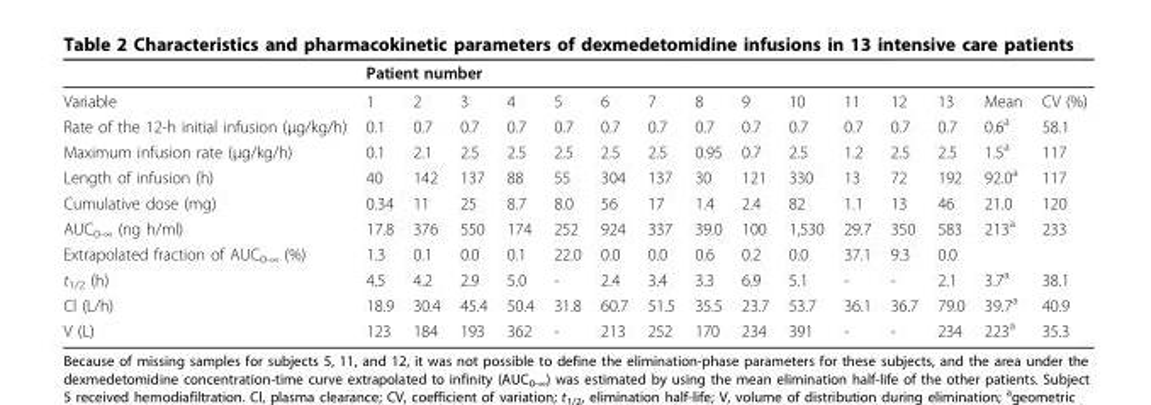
<table><thead><tr><td rowspan="2">Variable</td><td colspan="13">Patient number</td><td rowspan="2">Mean</td><td rowspan="2">CV (%)</td></tr><tr><td>1</td><td>2</td><td>3</td><td>4</td><td>5</td><td>6</td><td>7</td><td>8</td><td>9</td><td>10</td><td>11</td><td>12</td><td>13</td></tr></thead><tbody><tr><td>Rate of the 12-h initial infusion (μg/kg/h)</td><td>0.1</td><td>0.7</td><td>0.7</td><td>0.7</td><td>0.7</td><td>0.7</td><td>0.7</td><td>0.7</td><td>0.7</td><td>0.7</td><td>0.7</td><td>0.7</td><td>0.7</td><td>0.6<sup>a</sup></td><td>58.1</td></tr><tr><td>Maximum infusion rate (μg/kg/h)</td><td>0.1</td><td>2.1</td><td>2.5</td><td>2.5</td><td>2.5</td><td>2.5</td><td>2.5</td><td>0.95</td><td>0.7</td><td>2.5</td><td>1.2</td><td>2.5</td><td>2.5</td><td>1.5<sup>a</sup></td><td>117</td></tr><tr><td>Length of infusion (h)</td><td>40</td><td>142</td><td>137</td><td>88</td><td>55</td><td>304</td><td>137</td><td>30</td><td>121</td><td>330</td><td>13</td><td>72</td><td>192</td><td>92.0<sup>a</sup></td><td>117</td></tr><tr><td>Cumulative dose (mg)</td><td>0.34</td><td>11</td><td>25</td><td>8.7</td><td>8.0</td><td>56</td><td>17</td><td>1.4</td><td>2.4</td><td>82</td><td>1.1</td><td>13</td><td>46</td><td>21.0</td><td>120</td></tr><tr><td>AUC<sub>0-∞</sub> (ng h/ml)</td><td>17.8</td><td>376</td><td>550</td><td>174</td><td>252</td><td>924</td><td>337</td><td>39.0</td><td>100</td><td>1,530</td><td>29.7</td><td>350</td><td>583</td><td>213<sup>a</sup></td><td>233</td></tr><tr><td>Extrapolated fraction of AUC<sub>0-∞</sub> (%)</td><td>1.3</td><td>0.1</td><td>0.0</td><td>0.1</td><td>22.0</td><td>0.0</td><td>0.0</td><td>0.6</td><td>0.2</td><td>0.0</td><td>37.1</td><td>9.3</td><td>0.0</td><td></td><td></td></tr><tr><td>t<sub>1/2</sub> (h)</td><td>4.5</td><td>4.2</td><td>2.9</td><td>5.0</td><td>-</td><td>2.4</td><td>3.4</td><td>3.3</td><td>6.9</td><td>5.1</td><td>-</td><td>-</td><td>2.1</td><td>3.7<sup>a</sup></td><td>38.1</td></tr><tr><td>Cl (L/h)</td><td>18.9</td><td>30.4</td><td>45.4</td><td>50.4</td><td>31.8</td><td>60.7</td><td>51.5</td><td>35.5</td><td>23.7</td><td>53.7</td><td>36.1</td><td>36.7</td><td>79.0</td><td>39.7<sup>a</sup></td><td>40.9</td></tr><tr><td>V (L)</td><td>123</td><td>184</td><td>193</td><td>362</td><td>-</td><td>213</td><td>252</td><td>170</td><td>234</td><td>391</td><td>-</td><td>-</td><td>234</td><td>223<sup>a</sup></td><td>35.3</td></tr></tbody></table>